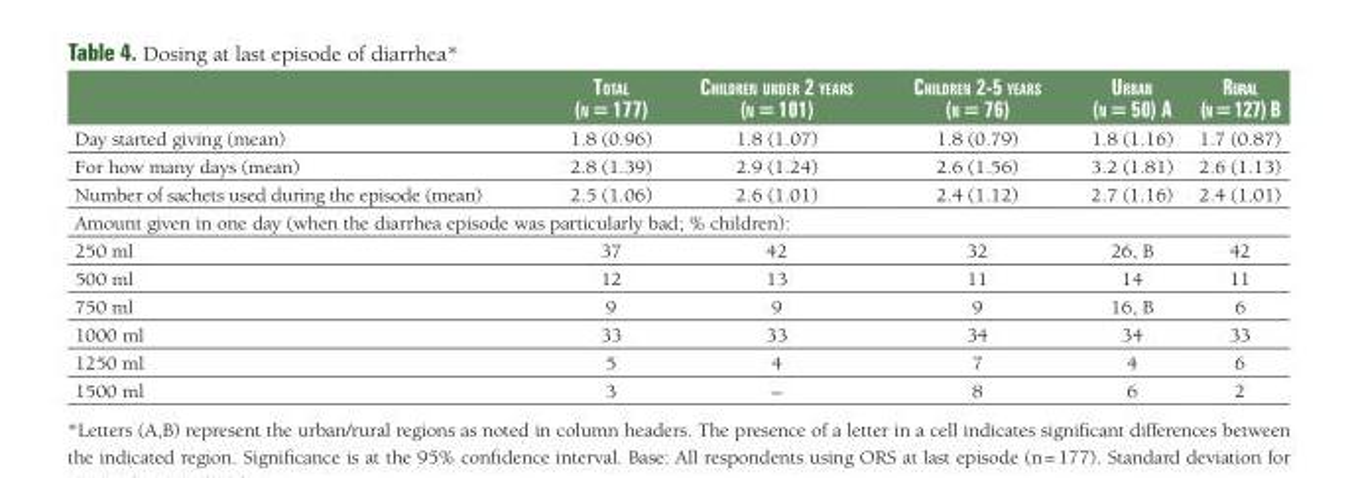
<table><thead><tr><td></td><td>total (n = 177)</td><td>children under 2 yearS (n = 101)</td><td>children 2-5 yearS (n = 76)</td><td>urban (n = 50) a</td><td>rural (n = 127) b</td></tr></thead><tbody><tr><td>Day started giving (mean)</td><td>1.8 (0.96)</td><td>1.8 (1.07)</td><td>1.8 (0.79)</td><td>1.8 (1.16)</td><td>1.7 (0.87)</td></tr><tr><td>For how many days (mean)</td><td>2.8 (1.39)</td><td>2.9 (1.24)</td><td>2.6 (1.56)</td><td>3.2 (1.81)</td><td>2.6 (1.13)</td></tr><tr><td>Number of sachets used during the episode (mean)</td><td>2.5 (1.06)</td><td>2.6 (1.01)</td><td>2.4 (1.12)</td><td>2.7 (1.16)</td><td>2.4 (1.01)</td></tr><tr><td colspan="6">Amount given in one day (when the diarrhea episode was particularly bad; % children):</td></tr><tr><td>250 ml</td><td>37</td><td>42</td><td>32</td><td>26, B</td><td>42</td></tr><tr><td>500 ml</td><td>12</td><td>13</td><td>11</td><td>14</td><td>11</td></tr><tr><td>750 ml</td><td>9</td><td>9</td><td>9</td><td>16, B</td><td>6</td></tr><tr><td>1000 ml</td><td>33</td><td>33</td><td>34</td><td>34</td><td>33</td></tr><tr><td>1250 ml</td><td>5</td><td>4</td><td>7</td><td>4</td><td>6</td></tr><tr><td>1500 ml</td><td>3</td><td>–</td><td>8</td><td>6</td><td>2</td></tr></tbody></table>